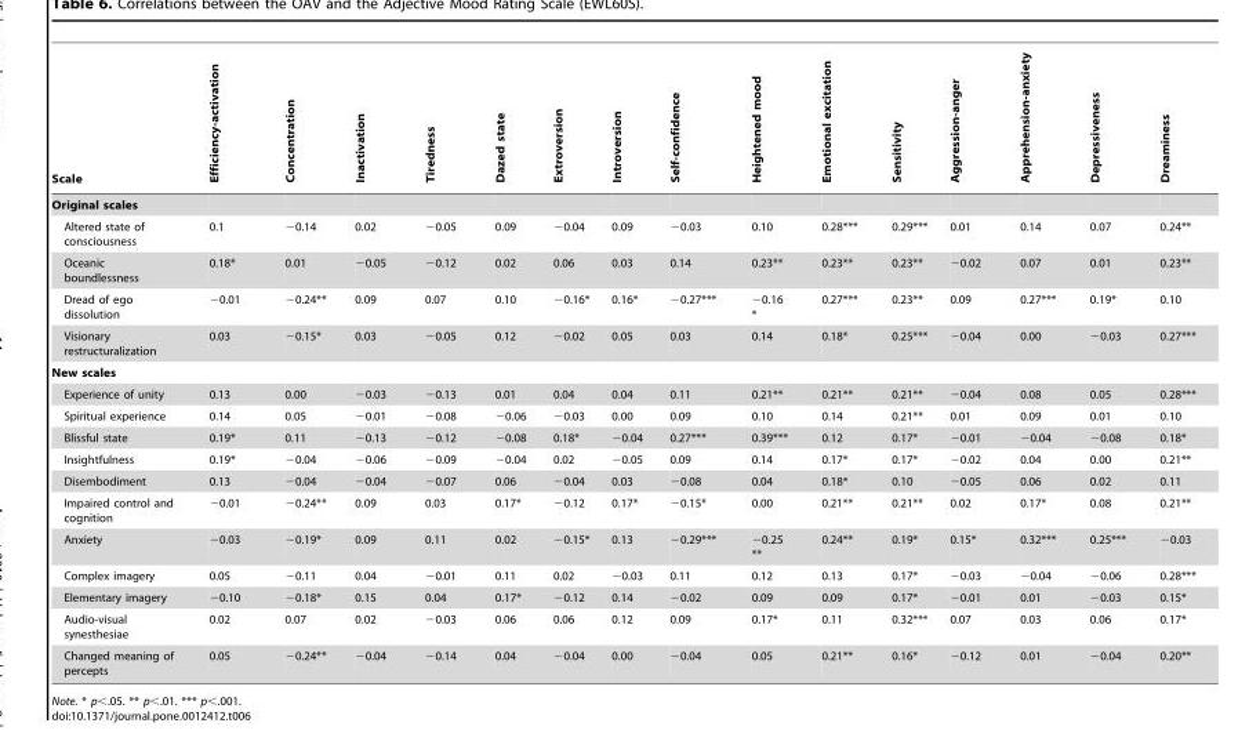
<table><thead><tr><td>Scale</td><td>Efficiency-activation</td><td>Concentration</td><td>Inactivation</td><td>Tiredness</td><td>Dazed state</td><td>Extroversion</td><td>Introversion</td><td>Self-confidence</td><td>Heightened mood</td><td>Emotional excitation</td><td>Sensitivity</td><td>Aggression-anger</td><td>Apprehension-anxiety</td><td>Depressiveness</td><td>Dreaminess</td></tr></thead><tbody><tr><td colspan="16">Original scales</td></tr><tr><td>Altered state of consciousness</td><td>0.1</td><td>−0.14</td><td>0.02</td><td>−0.05</td><td>0.09</td><td>−0.04</td><td>0.09</td><td>−0.03</td><td>0.10</td><td>0.28***</td><td>0.29***</td><td>0.01</td><td>0.14</td><td>0.07</td><td>0.24**</td></tr><tr><td>Oceanic boundlessness</td><td>0.18*</td><td>0.01</td><td>−0.05</td><td>−0.12</td><td>0.02</td><td>0.06</td><td>0.03</td><td>0.14</td><td>0.23**</td><td>0.23**</td><td>0.23**</td><td>−0.02</td><td>0.07</td><td>0.01</td><td>0.23**</td></tr><tr><td>Dread of ego dissolution</td><td>−0.01</td><td>−0.24**</td><td>0.09</td><td>0.07</td><td>0.10</td><td>−0.16*</td><td>0.16*</td><td>−0.27***</td><td>−0.16 *</td><td>0.27***</td><td>0.23**</td><td>0.09</td><td>0.27***</td><td>0.19*</td><td>0.10</td></tr><tr><td>Visionary restructuralization</td><td>0.03</td><td>−0.15*</td><td>0.03</td><td>−0.05</td><td>0.12</td><td>−0.02</td><td>0.05</td><td>0.03</td><td>0.14</td><td>0.18*</td><td>0.25***</td><td>−0.04</td><td>0.00</td><td>−0.03</td><td>0.27***</td></tr><tr><td colspan="16">New scales</td></tr><tr><td>Experience of unity</td><td>0.13</td><td>0.00</td><td>−0.03</td><td>−0.13</td><td>0.01</td><td>0.04</td><td>0.04</td><td>0.11</td><td>0.21**</td><td>0.21**</td><td>0.21**</td><td>−0.04</td><td>0.08</td><td>0.05</td><td>0.28***</td></tr><tr><td>Spiritual experience</td><td>0.14</td><td>0.05</td><td>−0.01</td><td>−0.08</td><td>−0.06</td><td>−0.03</td><td>0.00</td><td>0.09</td><td>0.10</td><td>0.14</td><td>0.21**</td><td>0.01</td><td>0.09</td><td>0.01</td><td>0.10</td></tr><tr><td>Blissful state</td><td>0.19*</td><td>0.11</td><td>−0.13</td><td>−0.12</td><td>−0.08</td><td>0.18*</td><td>−0.04</td><td>0.27***</td><td>0.39***</td><td>0.12</td><td>0.17*</td><td>−0.01</td><td>−0.04</td><td>−0.08</td><td>0.18*</td></tr><tr><td>Insightfulness</td><td>0.19*</td><td>−0.04</td><td>−0.06</td><td>−0.09</td><td>−0.04</td><td>0.02</td><td>−0.05</td><td>0.09</td><td>0.14</td><td>0.17*</td><td>0.17*</td><td>−0.02</td><td>0.04</td><td>0.00</td><td>0.21**</td></tr><tr><td>Disembodiment</td><td>0.13</td><td>−0.04</td><td>−0.04</td><td>−0.07</td><td>0.06</td><td>−0.04</td><td>0.03</td><td>−0.08</td><td>0.04</td><td>0.18*</td><td>0.10</td><td>−0.05</td><td>0.06</td><td>0.02</td><td>0.11</td></tr><tr><td>Impaired control and cognition</td><td>−0.01</td><td>−0.24**</td><td>0.09</td><td>0.03</td><td>0.17*</td><td>−0.12</td><td>0.17*</td><td>−0.15*</td><td>0.00</td><td>0.21**</td><td>0.21**</td><td>0.02</td><td>0.17*</td><td>0.08</td><td>0.21**</td></tr><tr><td>Anxiety</td><td>−0.03</td><td>−0.19*</td><td>0.09</td><td>0.11</td><td>0.02</td><td>−0.15*</td><td>0.13</td><td>−0.29***</td><td>−0.25 **</td><td>0.24**</td><td>0.19*</td><td>0.15*</td><td>0.32***</td><td>0.25***</td><td>−0.03</td></tr><tr><td>Complex imagery</td><td>0.05</td><td>−0.11</td><td>0.04</td><td>−0.01</td><td>0.11</td><td>0.02</td><td>−0.03</td><td>0.11</td><td>0.12</td><td>0.13</td><td>0.17*</td><td>−0.03</td><td>−0.04</td><td>−0.06</td><td>0.28***</td></tr><tr><td>Elementary imagery</td><td>−0.10</td><td>−0.18*</td><td>0.15</td><td>0.04</td><td>0.17*</td><td>−0.12</td><td>0.14</td><td>−0.02</td><td>0.09</td><td>0.09</td><td>0.17*</td><td>−0.01</td><td>0.01</td><td>−0.03</td><td>0.15*</td></tr><tr><td>Audio-visual synesthesiae</td><td>0.02</td><td>0.07</td><td>0.02</td><td>−0.03</td><td>0.06</td><td>0.06</td><td>0.12</td><td>0.09</td><td>0.17*</td><td>0.11</td><td>0.32***</td><td>0.07</td><td>0.03</td><td>0.06</td><td>0.17*</td></tr><tr><td>Changed meaning of percepts</td><td>0.05</td><td>−0.24**</td><td>−0.04</td><td>−0.14</td><td>0.04</td><td>−0.04</td><td>0.00</td><td>−0.04</td><td>0.05</td><td>0.21**</td><td>0.16*</td><td>−0.12</td><td>0.01</td><td>−0.04</td><td>0.20**</td></tr></tbody></table>